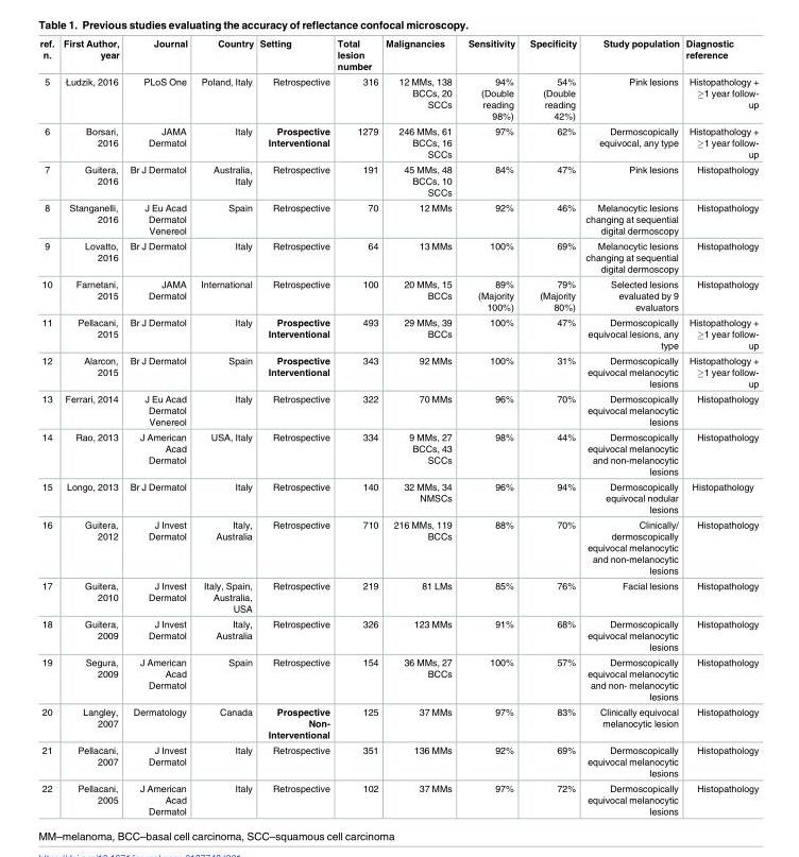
<table><thead><tr><td>ref. n.</td><td>First Author, year</td><td>Journal</td><td>Country</td><td>Setting</td><td>Total lesion number</td><td>Malignancies</td><td>Sensitivity</td><td>Specificity</td><td>Study population</td><td>Diagnostic reference</td></tr></thead><tbody><tr><td>5</td><td>Łudzik, 2016</td><td>PLoS One</td><td>Poland, Italy</td><td>Retrospective</td><td>316</td><td>12 MMs, 138 BCCs, 20 SCCs</td><td>94% (Double reading 98%)</td><td>54% (Double reading 42%)</td><td>Pink lesions</td><td>Histopathology + ≥1 year follow- up</td></tr><tr><td>6</td><td>Borsari, 2016</td><td>JAMA Dermatol</td><td>Italy</td><td>Prospective Interventional</td><td>1279</td><td>246 MMs, 61 BCCs, 16 SCCs</td><td>97%</td><td>62%</td><td>Dermoscopically equivocal, any type</td><td>Histopathology + ≥1 year follow- up</td></tr><tr><td>7</td><td>Guitera, 2016</td><td>Br J Dermatol</td><td>Australia, Italy</td><td>Retrospective</td><td>191</td><td>45 MMs, 48 BCCs, 10 SCCs</td><td>84%</td><td>47%</td><td>Pink lesions</td><td>Histopathology</td></tr><tr><td>8</td><td>Stanganelli, 2016</td><td>J Eu Acad Dermatol Venereol</td><td>Spain</td><td>Retrospective</td><td>70</td><td>12 MMs</td><td>92%</td><td>46%</td><td>Melanocytic lesions changing at sequential digital dermoscopy</td><td>Histopathology</td></tr><tr><td>9</td><td>Lovatto, 2016</td><td>Br J Dermatol</td><td>Italy</td><td>Retrospective</td><td>64</td><td>13 MMs</td><td>100%</td><td>69%</td><td>Melanocytic lesions changing at sequential digital dermoscopy</td><td>Histopathology</td></tr><tr><td>10</td><td>Farnetani, 2015</td><td>JAMA Dermatol</td><td>International</td><td>Retrospective</td><td>100</td><td>20 MMs, 15 BCCs</td><td>89% (Majority 100%)</td><td>79% (Majority 80%)</td><td>Selected lesions evaluated by 9 evaluators</td><td>Histopathology</td></tr><tr><td>11</td><td>Pellacani, 2015</td><td>Br J Dermatol</td><td>Italy</td><td>Prospective Interventional</td><td>493</td><td>29 MMs, 39 BCCs</td><td>100%</td><td>47%</td><td>Dermoscopically equivocal lesions, any type</td><td>Histopathology + ≥1 year follow- up</td></tr><tr><td>12</td><td>Alarcon, 2015</td><td>Br J Dermatol</td><td>Spain</td><td>Prospective Interventional</td><td>343</td><td>92 MMs</td><td>100%</td><td>31%</td><td>Dermoscopically equivocal melanocytic lesions</td><td>Histopathology + ≥1 year follow- up</td></tr><tr><td>13</td><td>Ferrari, 2014</td><td>J Eu Acad Dermatol Venereol</td><td>Italy</td><td>Retrospective</td><td>322</td><td>70 MMs</td><td>96%</td><td>70%</td><td>Dermoscopically equivocal melanocytic lesions</td><td>Histopathology</td></tr><tr><td>14</td><td>Rao, 2013</td><td>J American Acad Dermatol</td><td>USA, Italy</td><td>Retrospective</td><td>334</td><td>9 MMs, 27 BCCs, 43 SCCs</td><td>98%</td><td>44%</td><td>Dermoscopically equivocal melanocytic and non-melanocytic lesions</td><td>Histopathology</td></tr><tr><td>15</td><td>Longo, 2013</td><td>Br J Dermatol</td><td>Italy</td><td>Retrospective</td><td>140</td><td>32 MMs, 34 NMSCs</td><td>96%</td><td>94%</td><td>Dermoscopically equivocal nodular lesions</td><td>Histopathology</td></tr><tr><td>16</td><td>Guitera, 2012</td><td>J Invest Dermatol</td><td>Italy, Australia</td><td>Retrospective</td><td>710</td><td>216 MMs, 119 BCCs</td><td>88%</td><td>70%</td><td>Clinically/ dermoscopically equivocal melanocytic and non-melanocytic lesions</td><td>Histopathology</td></tr><tr><td>17</td><td>Guitera, 2010</td><td>J Invest Dermatol</td><td>Italy, Spain, Australia, USA</td><td>Retrospective</td><td>219</td><td>81 LMs</td><td>85%</td><td>76%</td><td>Facial lesions</td><td>Histopathology</td></tr><tr><td>18</td><td>Guitera, 2009</td><td>J Invest Dermatol</td><td>Italy, Australia</td><td>Retrospective</td><td>326</td><td>123 MMs</td><td>91%</td><td>68%</td><td>Dermoscopically equivocal melanocytic lesions</td><td>Histopathology</td></tr><tr><td>19</td><td>Segura, 2009</td><td>J American Acad Dermatol</td><td>Spain</td><td>Retrospective</td><td>154</td><td>36 MMs, 27 BCCs</td><td>100%</td><td>57%</td><td>Dermoscopically equivocal melanocytic and non- melanocytic lesions</td><td>Histopathology</td></tr><tr><td>20</td><td>Langley, 2007</td><td>Dermatology</td><td>Canada</td><td>Prospective Non- Interventional</td><td>125</td><td>37 MMs</td><td>97%</td><td>83%</td><td>Clinically equivocal melanocytic lesion</td><td>Histopathology</td></tr><tr><td>21</td><td>Pellacani, 2007</td><td>J Invest Dermatol</td><td>Italy</td><td>Retrospective</td><td>351</td><td>136 MMs</td><td>92%</td><td>69%</td><td>Dermoscopically equivocal melanocytic lesions</td><td>Histopathology</td></tr><tr><td>22</td><td>Pellacani, 2005</td><td>J American Acad Dermatol</td><td>Italy</td><td>Retrospective</td><td>102</td><td>37 MMs</td><td>97%</td><td>72%</td><td>Dermoscopically equivocal melanocytic lesions</td><td>Histopathology</td></tr></tbody></table>